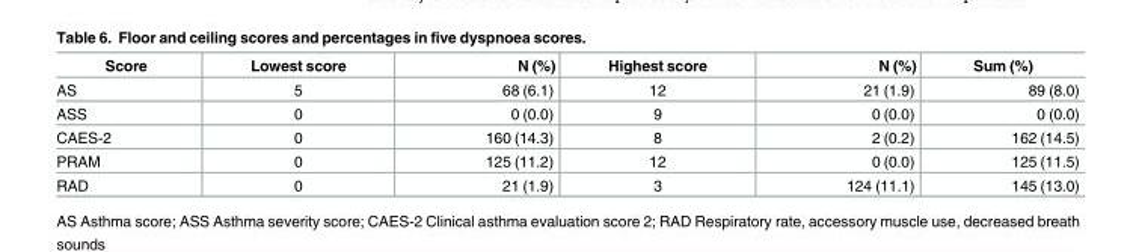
<table><thead><tr><td>Score</td><td>Lowest score</td><td>N (%)</td><td>Highest score</td><td>N (%)</td><td>Sum (%)</td></tr></thead><tbody><tr><td>AS</td><td>5</td><td>68 (6.1)</td><td>12</td><td>21 (1.9)</td><td>89 (8.0)</td></tr><tr><td>ASS</td><td>0</td><td>0 (0.0)</td><td>9</td><td>0 (0.0)</td><td>0 (0.0)</td></tr><tr><td>CAES-2</td><td>0</td><td>160 (14.3)</td><td>8</td><td>2 (0.2)</td><td>162 (14.5)</td></tr><tr><td>PRAM</td><td>0</td><td>125 (11.2)</td><td>12</td><td>0 (0.0)</td><td>125 (11.5)</td></tr><tr><td>RAD</td><td>0</td><td>21 (1.9)</td><td>3</td><td>124 (11.1)</td><td>145 (13.0)</td></tr></tbody></table>